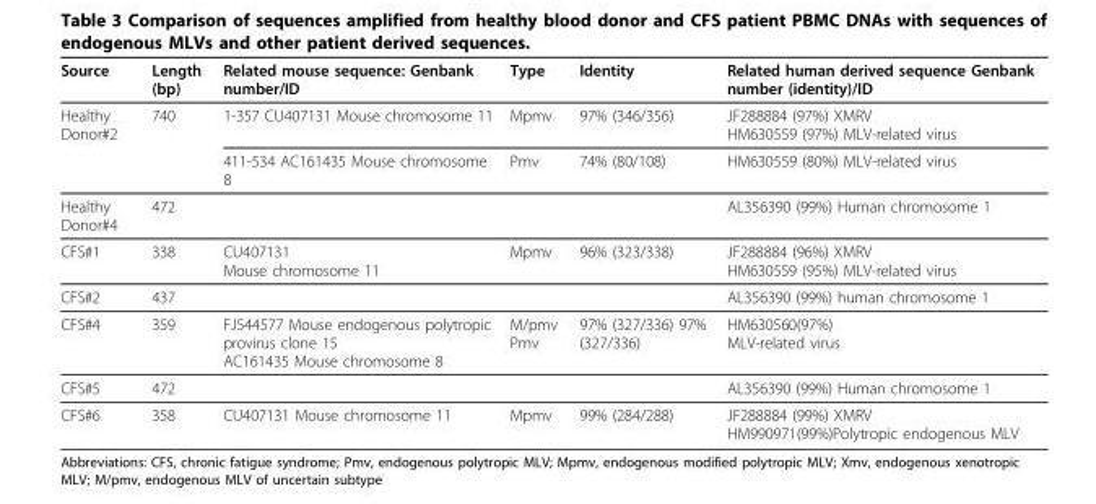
<table><thead><tr><td>Source</td><td>Length (bp)</td><td>Related mouse sequence: Genbank number/ID</td><td>Type</td><td>Identity</td><td>Related human derived sequence Genbank number (identity)/ID</td></tr></thead><tbody><tr><td rowspan="2">Healthy Donor#2</td><td>740</td><td>1-357 CU407131 Mouse chromosome 11</td><td>Mpmv</td><td>97% (346/356)</td><td>JF288884 (97%) XMRV HM630559 (97%) MLV-related virus</td></tr><tr><td></td><td>411-534 AC161435 Mouse chromosome 8</td><td>Pmv</td><td>74% (80/108)</td><td>HM630559 (80%) MLV-related virus</td></tr><tr><td>Healthy Donor#4</td><td>472</td><td></td><td></td><td></td><td>AL356390 (99%) Human chromosome 1</td></tr><tr><td>CFS#1</td><td>338</td><td>CU407131 Mouse chromosome 11</td><td>Mpmv</td><td>96% (323/338)</td><td>JF288884 (96%) XMRV HM630559 (95%) MLV-related virus</td></tr><tr><td>CFS#2</td><td>437</td><td></td><td></td><td></td><td>AL356390 (99%) human chromosome 1</td></tr><tr><td>CFS#4</td><td>359</td><td>FJ544577 Mouse endogenous polytropic provirus clone 15 AC161435 Mouse chromosome 8</td><td>M/pmv Pmv</td><td>97% (327/336) 97% (327/336)</td><td>HM630560(97%) MLV-related virus</td></tr><tr><td>CFS#5</td><td>472</td><td></td><td></td><td></td><td>AL356390 (99%) Human chromosome 1</td></tr><tr><td>CFS#6</td><td>358</td><td>CU407131 Mouse chromosome 11</td><td>Mpmv</td><td>99% (284/288)</td><td>JF288884 (99%) XMRV HM990971(99%)Polytropic endogenous MLV</td></tr></tbody></table>